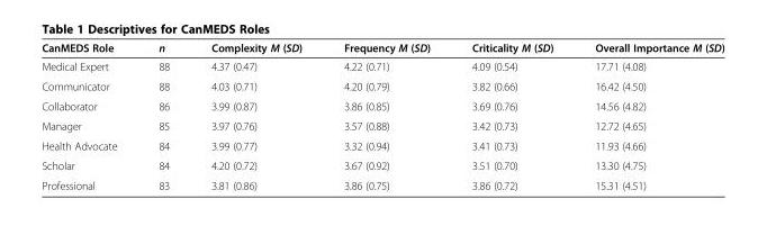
<table><thead><tr><td>CanMEDS Role</td><td>n</td><td>Complexity M (SD)</td><td>Frequency M (SD)</td><td>Criticality M (SD)</td><td>Overall Importance M (SD)</td></tr></thead><tbody><tr><td>Medical Expert</td><td>88</td><td>4.37 (0.47)</td><td>4.22 (0.71)</td><td>4.09 (0.54)</td><td>17.71 (4.08)</td></tr><tr><td>Communicator</td><td>88</td><td>4.03 (0.71)</td><td>4.20 (0.79)</td><td>3.82 (0.66)</td><td>16.42 (4.50)</td></tr><tr><td>Collaborator</td><td>86</td><td>3.99 (0.87)</td><td>3.86 (0.85)</td><td>3.69 (0.76)</td><td>14.56 (4.82)</td></tr><tr><td>Manager</td><td>85</td><td>3.97 (0.76)</td><td>3.57 (0.88)</td><td>3.42 (0.73)</td><td>12.72 (4.65)</td></tr><tr><td>Health Advocate</td><td>84</td><td>3.99 (0.77)</td><td>3.32 (0.94)</td><td>3.41 (0.73)</td><td>11.93 (4.66)</td></tr><tr><td>Scholar</td><td>84</td><td>4.20 (0.72)</td><td>3.67 (0.92)</td><td>3.51 (0.70)</td><td>13.30 (4.75)</td></tr><tr><td>Professional</td><td>83</td><td>3.81 (0.86)</td><td>3.86 (0.75)</td><td>3.86 (0.72)</td><td>15.31 (4.51)</td></tr></tbody></table>